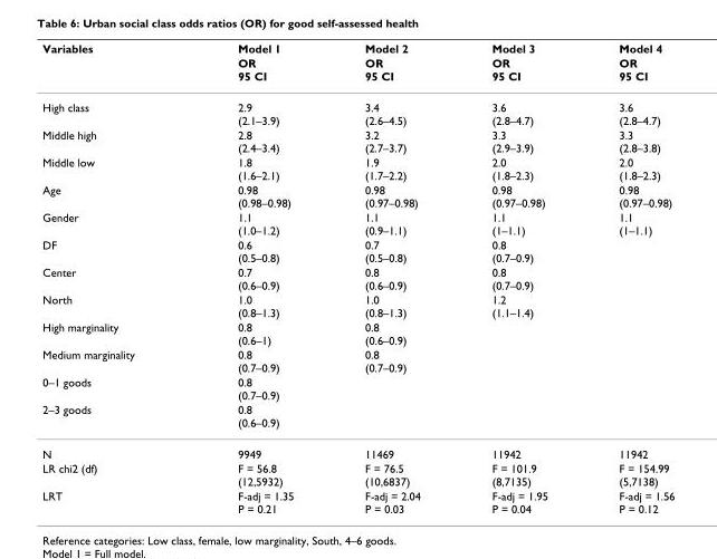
<table><thead><tr><td rowspan="2">Variables</td><td rowspan="2">Model 1 OR 95 CI</td><td rowspan="2">Model 2 OR 95 CI</td><td rowspan="2">Model 3 OR 95 CI</td><td rowspan="2">Model 4 OR 95 CI</td></tr><tr></tr></thead><tbody><tr><td>High class</td><td>2.9 (2.1–3.9)</td><td>3.4 (2.6–4.5)</td><td>3.6 (2.8–4.7)</td><td>3.6 (2.8–4.7)</td></tr><tr><td>Middle high</td><td>2.8 (2.4–3.4)</td><td>3.2 (2.7–3.7)</td><td>3.3 (2.9–3.9)</td><td>3.3 (2.8–3.8)</td></tr><tr><td>Middle low</td><td>1.8 (1.6–2.1)</td><td>1.9 (1.7–2.2)</td><td>2.0 (1.8–2.3)</td><td>2.0 (1.8–2.3)</td></tr><tr><td>Age</td><td>0.98 (0.98–0.98)</td><td>0.98 (0.97–0.98)</td><td>0.98 (0.97–0.98)</td><td>0.98 (0.97–0.98)</td></tr><tr><td>Gender</td><td>1.1 (1.0–1.2)</td><td>1.1 (0.9–1.1)</td><td>1.1 (1–1.1)</td><td>1.1 (1–1.1)</td></tr><tr><td>DF</td><td>0.6 (0.5–0.8)</td><td>0.7 (0.5–0.8)</td><td>0.8 (0.7–0.9)</td><td></td></tr><tr><td>Center</td><td>0.7 (0.6–0.9)</td><td>0.8 (0.6–0.9)</td><td>0.8 (0.7–0.9)</td><td></td></tr><tr><td>North</td><td>1.0 (0.8–1.3)</td><td>1.0 (0.8–1.3)</td><td>1.2 (1.1–1.4)</td><td></td></tr><tr><td>High marginality</td><td>0.8 (0.6–1)</td><td>0.8 (0.6–0.9)</td><td></td><td></td></tr><tr><td>Medium marginality</td><td>0.8 (0.7–0.9)</td><td>0.8 (0.7–0.9)</td><td></td><td></td></tr><tr><td>0–1 goods</td><td>0.8 (0.7–0.9)</td><td></td><td></td><td></td></tr><tr><td>2–3 goods</td><td>0.8 (0.6–0.9)</td><td></td><td></td><td></td></tr><tr><td>N</td><td>9949</td><td>11469</td><td>11942</td><td>11942</td></tr><tr><td>LR chi2 (df)</td><td>F = 56.8 (12,5932)</td><td>F = 76.5 (10,6837)</td><td>F = 101.9 (8,7135)</td><td>F = 154.99 (5,7138)</td></tr><tr><td>LRT</td><td>F-adj = 1.35 P = 0.21</td><td>F-adj = 2.04 P = 0.03</td><td>F-adj = 1.95 P = 0.04</td><td>F-adj = 1.56 P = 0.12</td></tr></tbody></table>